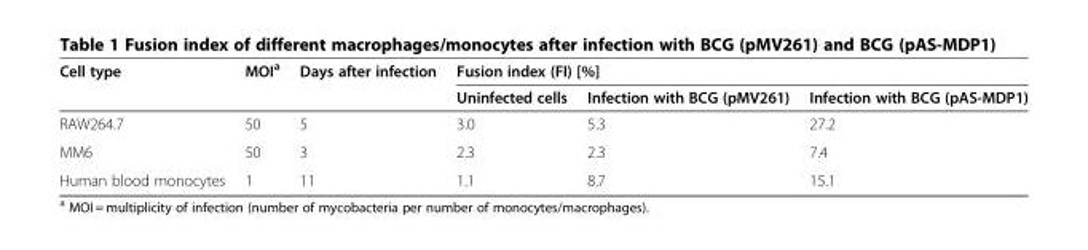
<table><thead><tr><td rowspan="2">Cell type</td><td rowspan="2">MOI<sup>a</sup></td><td rowspan="2">Days after infection</td><td colspan="3">Fusion index (FI) [%]</td></tr><tr><td>Uninfected cells</td><td>Infection with BCG (pMV261)</td><td>Infection with BCG (pAS-MDP1)</td></tr></thead><tbody><tr><td>RAW264.7</td><td>50</td><td>5</td><td>3.0</td><td>5.3</td><td>27.2</td></tr><tr><td>MM6</td><td>50</td><td>3</td><td>2.3</td><td>2.3</td><td>7.4</td></tr><tr><td>Human blood monocytes</td><td>1</td><td>11</td><td>1.1</td><td>8.7</td><td>15.1</td></tr></tbody></table>